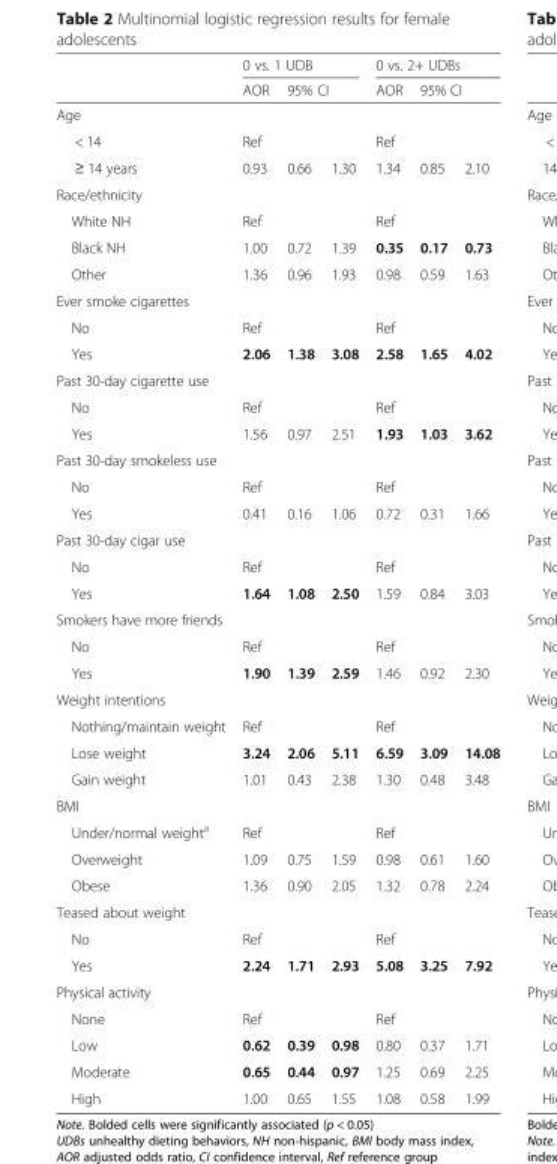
<table><thead><tr><td rowspan="2"></td><td colspan="3">0 vs. 1 UDB</td><td colspan="3">0 vs. 2+ UDBs</td></tr><tr><td>AOR</td><td colspan="2">95% CI</td><td>AOR</td><td colspan="2">95% CI</td></tr><tr><td colspan="7">Age</td></tr><tr><td>&lt; 14</td><td>Ref</td><td></td><td></td><td>Ref</td><td></td><td></td></tr></thead><tbody><tr><td>≥ 14 years</td><td>0.93</td><td>0.66</td><td>1.30</td><td>1.34</td><td>0.85</td><td>2.10</td></tr><tr><td colspan="7">Race/ethnicity</td></tr><tr><td>White NH</td><td>Ref</td><td></td><td></td><td>Ref</td><td></td><td></td></tr><tr><td>Black NH</td><td>1.00</td><td>0.72</td><td>1.39</td><td>0.35</td><td>0.17</td><td>0.73</td></tr><tr><td>Other</td><td>1.36</td><td>0.96</td><td>1.93</td><td>0.98</td><td>0.59</td><td>1.63</td></tr><tr><td colspan="7">Ever smoke cigarettes</td></tr><tr><td>No</td><td>Ref</td><td></td><td></td><td>Ref</td><td></td><td></td></tr><tr><td>Yes</td><td>2.06</td><td>1.38</td><td>3.08</td><td>2.58</td><td>1.65</td><td>4.02</td></tr><tr><td colspan="7">Past 30-day cigarette use</td></tr><tr><td>No</td><td>Ref</td><td></td><td></td><td>Ref</td><td></td><td></td></tr><tr><td>Yes</td><td>1.56</td><td>0.97</td><td>2.51</td><td>1.93</td><td>1.03</td><td>3.62</td></tr><tr><td colspan="7">Past 30-day smokeless use</td></tr><tr><td>No</td><td>Ref</td><td></td><td></td><td>Ref</td><td></td><td></td></tr><tr><td>Yes</td><td>0.41</td><td>0.16</td><td>1.06</td><td>0.72</td><td>0.31</td><td>1.66</td></tr><tr><td colspan="7">Past 30-day cigar use</td></tr><tr><td>No</td><td>Ref</td><td></td><td></td><td>Ref</td><td></td><td></td></tr><tr><td>Yes</td><td>1.64</td><td>1.08</td><td>2.50</td><td>1.59</td><td>0.84</td><td>3.03</td></tr><tr><td colspan="7">Smokers have more friends</td></tr><tr><td>No</td><td>Ref</td><td></td><td></td><td>Ref</td><td></td><td></td></tr><tr><td>Yes</td><td>1.90</td><td>1.39</td><td>2.59</td><td>1.46</td><td>0.92</td><td>2.30</td></tr><tr><td colspan="7">Weight intentions</td></tr><tr><td>Nothing/maintain weight</td><td>Ref</td><td></td><td></td><td>Ref</td><td></td><td></td></tr><tr><td>Lose weight</td><td>3.24</td><td>2.06</td><td>5.11</td><td>6.59</td><td>3.09</td><td>14.08</td></tr><tr><td>Gain weight</td><td>1.01</td><td>0.43</td><td>2.38</td><td>1.30</td><td>0.48</td><td>3.48</td></tr><tr><td colspan="7">BMI</td></tr><tr><td>Under/normal weight<sup>a</sup></td><td>Ref</td><td></td><td></td><td>Ref</td><td></td><td></td></tr><tr><td>Overweight</td><td>1.09</td><td>0.75</td><td>1.59</td><td>0.98</td><td>0.61</td><td>1.60</td></tr><tr><td>Obese</td><td>1.36</td><td>0.90</td><td>2.05</td><td>1.32</td><td>0.78</td><td>2.24</td></tr><tr><td colspan="7">Teased about weight</td></tr><tr><td>No</td><td>Ref</td><td></td><td></td><td>Ref</td><td></td><td></td></tr><tr><td>Yes</td><td>2.24</td><td>1.71</td><td>2.93</td><td>5.08</td><td>3.25</td><td>7.92</td></tr><tr><td colspan="7">Physical activity</td></tr><tr><td>None</td><td>Ref</td><td></td><td></td><td>Ref</td><td></td><td></td></tr><tr><td>Low</td><td>0.62</td><td>0.39</td><td>0.98</td><td>0.80</td><td>0.37</td><td>1.71</td></tr><tr><td>Moderate</td><td>0.65</td><td>0.44</td><td>0.97</td><td>1.25</td><td>0.69</td><td>2.25</td></tr><tr><td>High</td><td>1.00</td><td>0.65</td><td>1.55</td><td>1.08</td><td>0.58</td><td>1.99</td></tr></tbody></table>